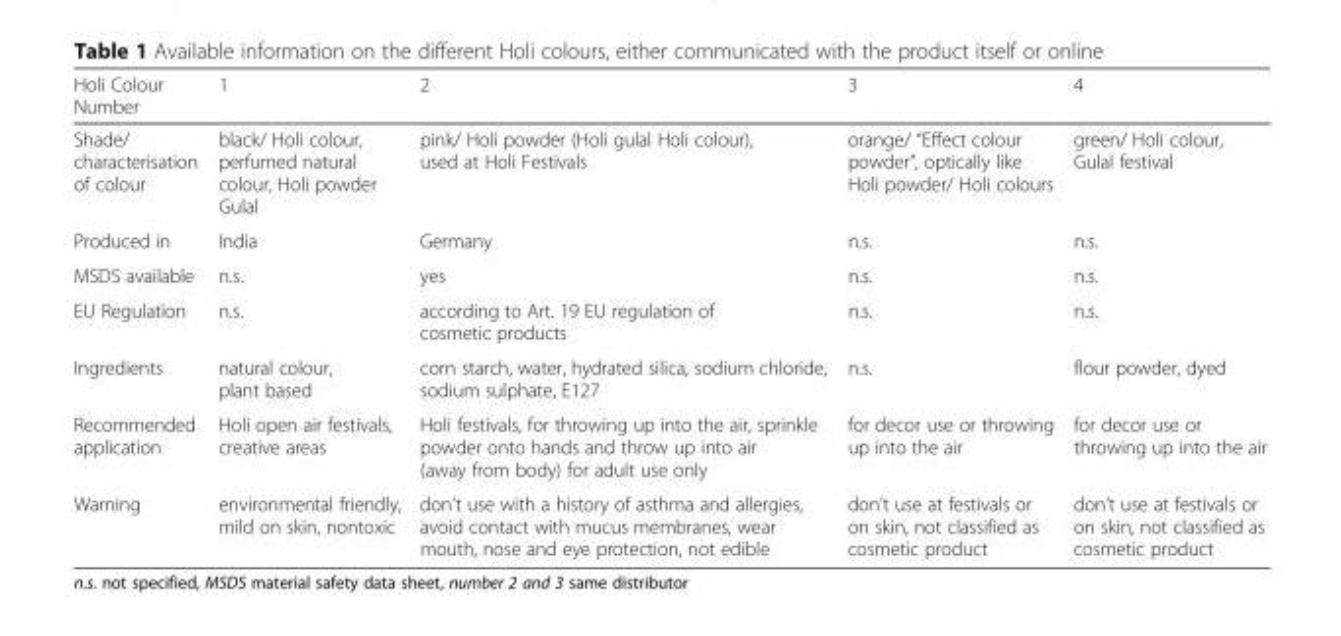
<table><thead><tr><td>Holi Colour Number</td><td>1</td><td>2</td><td>3</td><td>4</td></tr></thead><tbody><tr><td>Shade/ characterisation of colour</td><td>black/ Holi colour, perfumed natural colour, Holi powder Gulal</td><td>pink/ Holi powder (Holi gulal Holi colour), used at Holi Festivals</td><td>orange/ “Effect colour powder”, optically like Holi powder/ Holi colours</td><td>green/ Holi colour, Gulal festival</td></tr><tr><td>Produced in</td><td>India</td><td>Germany</td><td>n.s.</td><td>n.s.</td></tr><tr><td>MSDS available</td><td>n.s.</td><td>yes</td><td>n.s.</td><td>n.s.</td></tr><tr><td>EU Regulation</td><td>n.s.</td><td>according to Art. 19 EU regulation of cosmetic products</td><td>n.s.</td><td>n.s.</td></tr><tr><td>Ingredients</td><td>natural colour, plant based</td><td>corn starch, water, hydrated silica, sodium chloride, sodium sulphate, E127</td><td>n.s.</td><td>flour powder, dyed</td></tr><tr><td>Recommended application</td><td>Holi open air festivals, creative areas</td><td>Holi festivals, for throwing up into the air, sprinkle powder onto hands and throw up into air (away from body) for adult use only</td><td>for decor use or throwing up into the air</td><td>for decor use or throwing up into the air</td></tr><tr><td>Warning</td><td>environmental friendly, mild on skin, nontoxic</td><td>don’t use with a history of asthma and allergies, avoid contact with mucus membranes, wear mouth, nose and eye protection, not edible</td><td>don’t use at festivals or on skin, not classified as cosmetic product</td><td>don’t use at festivals or on skin, not classified as cosmetic product</td></tr></tbody></table>